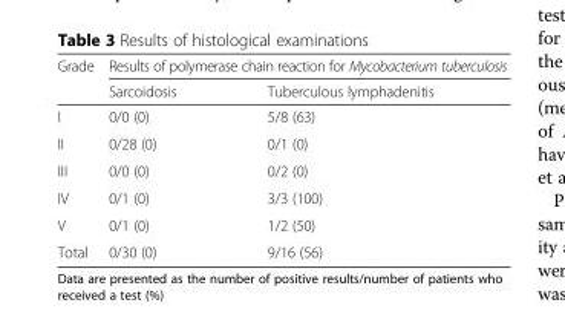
<table><thead><tr><td rowspan="2">Grade</td><td colspan="2">Results of polymerase chain reaction for Mycobacterium tuberculosis</td></tr><tr><td>Sarcoidosis</td><td>Tuberculous lymphadenitis</td></tr></thead><tbody><tr><td>I</td><td>0/0 (0)</td><td>5/8 (63)</td></tr><tr><td>II</td><td>0/28 (0)</td><td>0/1 (0)</td></tr><tr><td>III</td><td>0/0 (0)</td><td>0/2 (0)</td></tr><tr><td>IV</td><td>0/1 (0)</td><td>3/3 (100)</td></tr><tr><td>V</td><td>0/1 (0)</td><td>1/2 (50)</td></tr><tr><td>Total</td><td>0/30 (0)</td><td>9/16 (56)</td></tr></tbody></table>